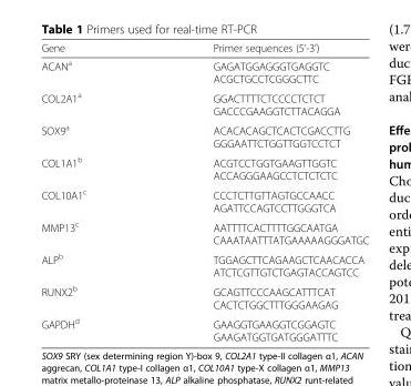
<table><thead><tr><td>Gene</td><td>Primer sequences (5’-3’)</td></tr></thead><tbody><tr><td>ACAN<sup>a</sup></td><td>GAGATGGAGGGTGAGGTC ACGCTGCCTCGGGCTTC</td></tr><tr><td>COL2A1<sup>a</sup></td><td>GGACTTTTCTCCCCTCTCT GACCCGAAGGTCTTACAGGA</td></tr><tr><td>SOX9<sup>a</sup></td><td>ACACACAGCTCACTCGACCTTG GGGAATTCTGGTTGGTCCTCT</td></tr><tr><td>COL1A1<sup>b</sup></td><td>ACGTCCTGGTGAAGTTGGTC ACCAGGGAAGCCTCTCTCTC</td></tr><tr><td>COL10A1<sup>c</sup></td><td>CCCTCTTGTTAGTGCCAACC AGATTCCAGTCCTTGGGTCA</td></tr><tr><td>MMP13<sup>c</sup></td><td>AATTTTCACTTTTGGCAATGA CAAATAATTTATGAAAAAGGGATGC</td></tr><tr><td>ALP<sup>b</sup></td><td>TGGAGCTTCAGAAGCTCAACACCA ATCTCGTTGTCTGAGTACCAGTCC</td></tr><tr><td>RUNX2<sup>b</sup></td><td>GCAGTTCCCAAGCATTTCAT CACTCTGGCTTTGGGAAGAG</td></tr><tr><td>GAPDH<sup>d</sup></td><td>GAAGGTGAAGGTCGGAGTC GAAGATGGTGATGGGATTTC</td></tr></tbody></table>